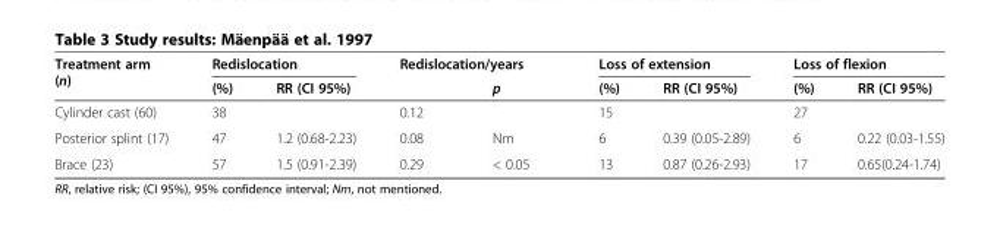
<table><thead><tr><td rowspan="2">Treatment arm (n)</td><td colspan="2">Redislocation</td><td colspan="2">Redislocation/years</td><td colspan="2">Loss of extension</td><td colspan="2">Loss of flexion</td></tr><tr><td>(%)</td><td>RR (CI 95%)</td><td></td><td>p</td><td>(%)</td><td>RR (CI 95%)</td><td>(%)</td><td>RR (CI 95%)</td></tr></thead><tbody><tr><td>Cylinder cast (60)</td><td>38</td><td></td><td>0.12</td><td></td><td>15</td><td></td><td>27</td><td></td></tr><tr><td>Posterior splint (17)</td><td>47</td><td>1.2 (0.68-2.23)</td><td>0.08</td><td>Nm</td><td>6</td><td>0.39 (0.05-2.89)</td><td>6</td><td>0.22 (0.03-1.55)</td></tr><tr><td>Brace (23)</td><td>57</td><td>1.5 (0.91-2.39)</td><td>0.29</td><td>&lt; 0.05</td><td>13</td><td>0.87 (0.26-2.93)</td><td>17</td><td>0.65(0.24-1.74)</td></tr></tbody></table>